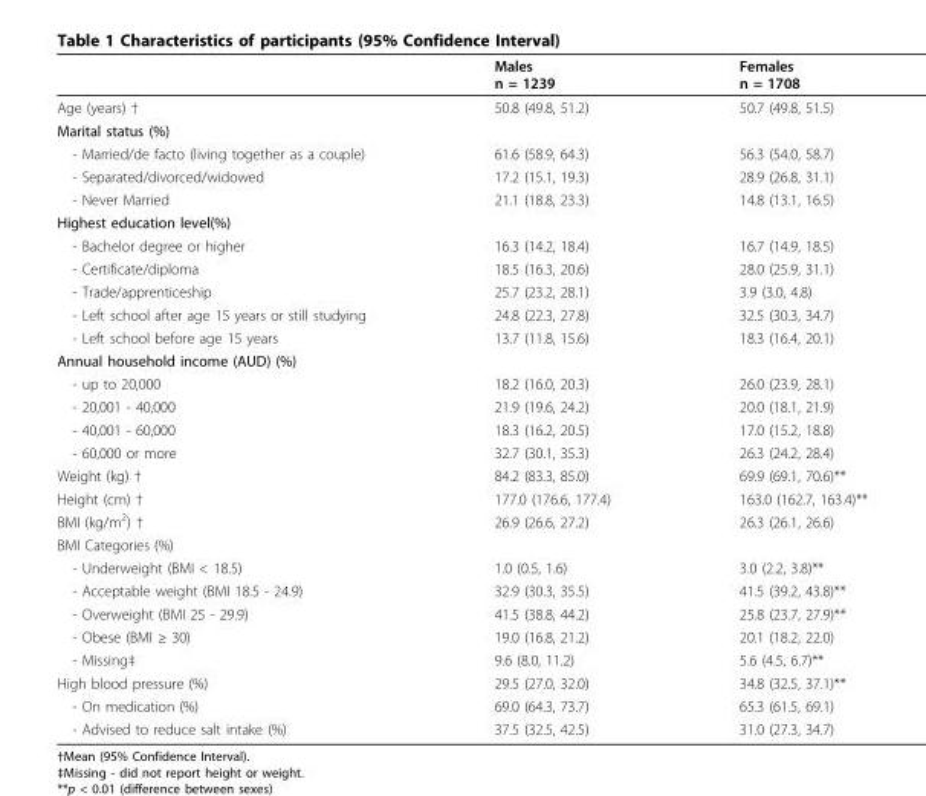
<table><thead><tr><td></td><td>Males n = 1239</td><td>Females n = 1708</td></tr></thead><tbody><tr><td>Age (years) †</td><td>50.8 (49.8, 51.2)</td><td>50.7 (49.8, 51.5)</td></tr><tr><td colspan="3">Marital status (%)</td></tr><tr><td>- Married/de facto (living together as a couple)</td><td>61.6 (58.9, 64.3)</td><td>56.3 (54.0, 58.7)</td></tr><tr><td>- Separated/divorced/widowed</td><td>17.2 (15.1, 19.3)</td><td>28.9 (26.8, 31.1)</td></tr><tr><td>- Never Married</td><td>21.1 (18.8, 23.3)</td><td>14.8 (13.1, 16.5)</td></tr><tr><td colspan="3">Highest education level(%)</td></tr><tr><td>- Bachelor degree or higher</td><td>16.3 (14.2, 18.4)</td><td>16.7 (14.9, 18.5)</td></tr><tr><td>- Certificate/diploma</td><td>18.5 (16.3, 20.6)</td><td>28.0 (25.9, 31.1)</td></tr><tr><td>- Trade/apprenticeship</td><td>25.7 (23.2, 28.1)</td><td>3.9 (3.0, 4.8)</td></tr><tr><td>- Left school after age 15 years or still studying</td><td>24.8 (22.3, 27.8)</td><td>32.5 (30.3, 34.7)</td></tr><tr><td>- Left school before age 15 years</td><td>13.7 (11.8, 15.6)</td><td>18.3 (16.4, 20.1)</td></tr><tr><td colspan="3">Annual household income (AUD) (%)</td></tr><tr><td>- up to 20,000</td><td>18.2 (16.0, 20.3)</td><td>26.0 (23.9, 28.1)</td></tr><tr><td>- 20,001 - 40,000</td><td>21.9 (19.6, 24.2)</td><td>20.0 (18.1, 21.9)</td></tr><tr><td>- 40,001 - 60,000</td><td>18.3 (16.2, 20.5)</td><td>17.0 (15.2, 18.8)</td></tr><tr><td>- 60,000 or more</td><td>32.7 (30.1, 35.3)</td><td>26.3 (24.2, 28.4)</td></tr><tr><td>Weight (kg) †</td><td>84.2 (83.3, 85.0)</td><td>69.9 (69.1, 70.6)**</td></tr><tr><td>Height (cm) †</td><td>177.0 (176.6, 177.4)</td><td>163.0 (162.7, 163.4)**</td></tr><tr><td>BMI (kg/m<sup>2</sup>) †</td><td>26.9 (26.6, 27.2)</td><td>26.3 (26.1, 26.6)</td></tr><tr><td colspan="3">BMI Categories (%)</td></tr><tr><td>- Underweight (BMI &lt; 18.5)</td><td>1.0 (0.5, 1.6)</td><td>3.0 (2.2, 3.8)**</td></tr><tr><td>- Acceptable weight (BMI 18.5 - 24.9)</td><td>32.9 (30.3, 35.5)</td><td>41.5 (39.2, 43.8)**</td></tr><tr><td>- Overweight (BMI 25 - 29.9)</td><td>41.5 (38.8, 44.2)</td><td>25.8 (23.7, 27.9)**</td></tr><tr><td>- Obese (BMI ≥ 30)</td><td>19.0 (16.8, 21.2)</td><td>20.1 (18.2, 22.0)</td></tr><tr><td>- Missing‡</td><td>9.6 (8.0, 11.2)</td><td>5.6 (4.5, 6.7)**</td></tr><tr><td>High blood pressure (%)</td><td>29.5 (27.0, 32.0)</td><td>34.8 (32.5, 37.1)**</td></tr><tr><td>- On medication (%)</td><td>69.0 (64.3, 73.7)</td><td>65.3 (61.5, 69.1)</td></tr><tr><td>- Advised to reduce salt intake (%)</td><td>37.5 (32.5, 42.5)</td><td>31.0 (27.3, 34.7)</td></tr></tbody></table>